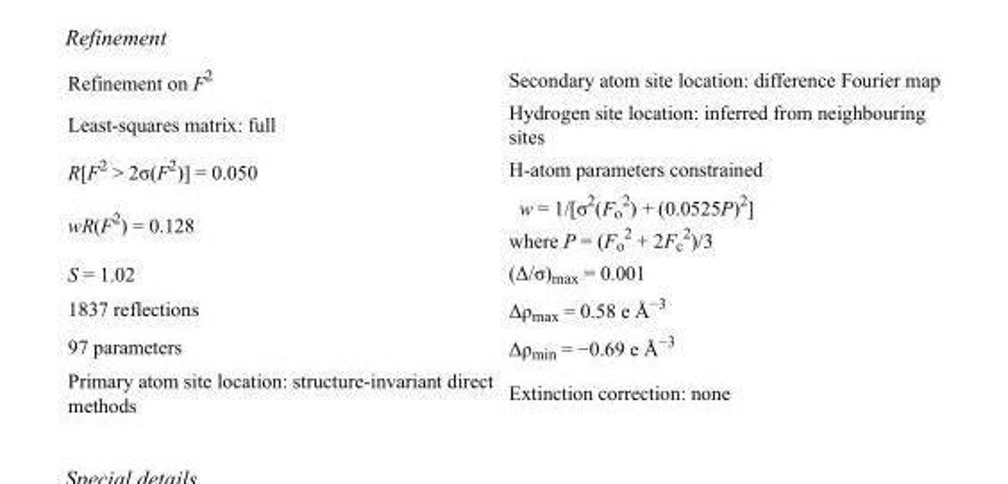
<table><tbody><tr><td>Refinement on F<sup>2</sup></td><td>Secondary atom site location: difference Fourier map</td></tr><tr><td>Least-squares matrix: full</td><td>Hydrogen site location: inferred from neighbouring sites</td></tr><tr><td>R[F<sup>2</sup> &gt; 2σ(F<sup>2</sup>)] = 0.050</td><td>H-atom parameters constrained</td></tr><tr><td>wR(F<sup>2</sup>) = 0.128</td><td>w = 1/[σ<sup>2</sup>(F<sub>o</sub> <sup>2</sup>) + (0.0525P)<sup>2</sup>] where P = (F<sub>o</sub> <sup>2</sup> + 2F<sub>c</sub> <sup>2</sup>)/3</td></tr><tr><td>S = 1.02</td><td>(Δ/σ)<sub>max</sub> = 0.001</td></tr><tr><td>1837 reflections</td><td>Δρ<sub>max</sub> = 0.58 e Å<sup>−3</sup></td></tr><tr><td>97 parameters</td><td>Δρ<sub>min</sub> = −0.69 e Å<sup>−3</sup></td></tr><tr><td>Primary atom site location: structure-invariant direct methods</td><td>Extinction correction: none</td></tr></tbody></table>